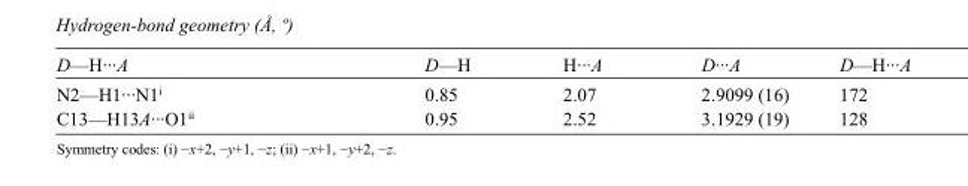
<table><tbody><tr><td>D—H···A</td><td>D—H</td><td>H···A</td><td>D···A</td><td>D—H···A</td></tr><tr><td>N2—H1···N1<sup>i</sup></td><td>0.85</td><td>2.07</td><td>2.9099 (16)</td><td>172</td></tr><tr><td>C13—H13A···O1<sup>ii</sup></td><td>0.95</td><td>2.52</td><td>3.1929 (19)</td><td>128</td></tr></tbody></table>